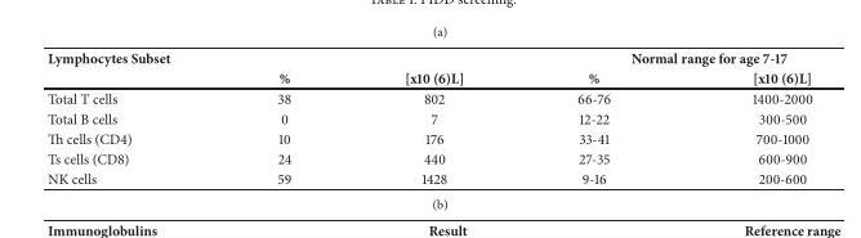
<table><thead><tr><td rowspan="2">Lymphocytes Subset</td><td rowspan="2">%</td><td rowspan="2">[x10 (6)L]</td><td colspan="2">Normal range for age 7-17</td></tr><tr><td>%</td><td>[x10 (6)L]</td></tr></thead><tbody><tr><td>Total T cells</td><td>38</td><td>802</td><td>66-76</td><td>1400-2000</td></tr><tr><td>Total B cells</td><td>0</td><td>7</td><td>12-22</td><td>300-500</td></tr><tr><td>Th cells (CD4)</td><td>10</td><td>176</td><td>33-41</td><td>700-1000</td></tr><tr><td>Ts cells (CD8)</td><td>24</td><td>440</td><td>27-35</td><td>600-900</td></tr><tr><td>NK cells</td><td>59</td><td>1428</td><td>9-16</td><td>200-600</td></tr></tbody></table>